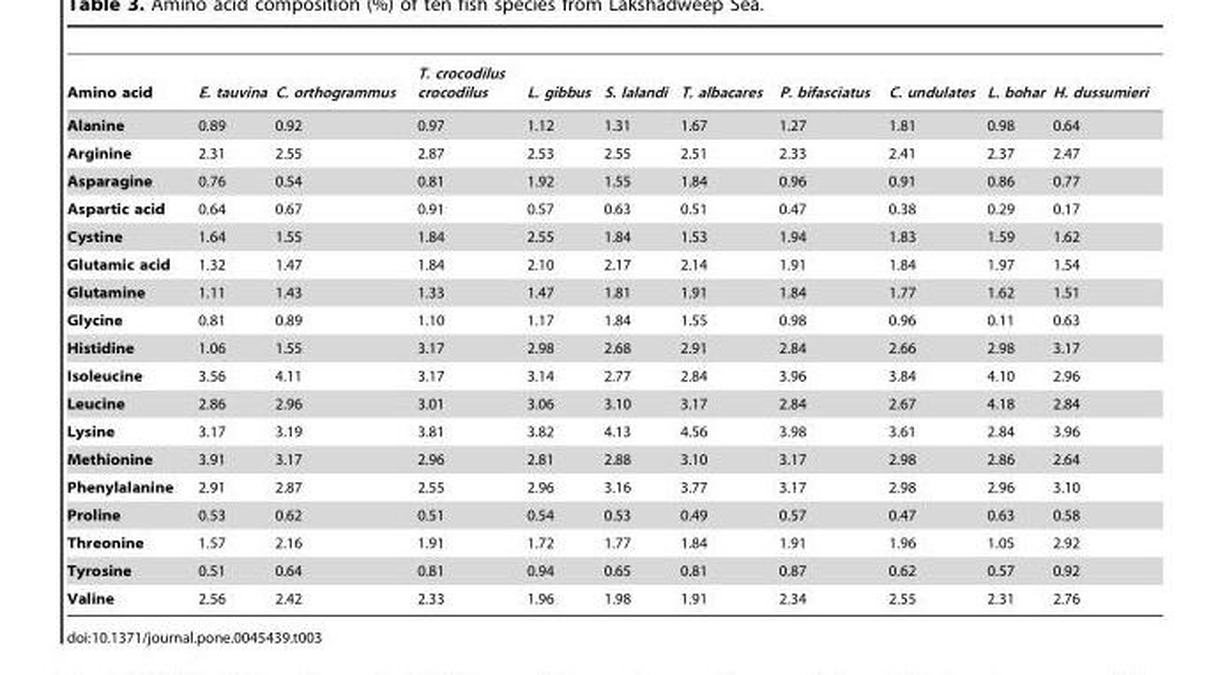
<table><thead><tr><td>Amino acid</td><td>E. tauvina</td><td>C. orthogrammus</td><td>T. crocodilus crocodilus</td><td>L. gibbus</td><td>S. lalandi</td><td>T. albacares</td><td>P. bifasciatus</td><td>C. undulates</td><td>L. bohar</td><td>H. dussumieri</td></tr></thead><tbody><tr><td>Alanine</td><td>0.89</td><td>0.92</td><td>0.97</td><td>1.12</td><td>1.31</td><td>1.67</td><td>1.27</td><td>1.81</td><td>0.98</td><td>0.64</td></tr><tr><td>Arginine</td><td>2.31</td><td>2.55</td><td>2.87</td><td>2.53</td><td>2.55</td><td>2.51</td><td>2.33</td><td>2.41</td><td>2.37</td><td>2.47</td></tr><tr><td>Asparagine</td><td>0.76</td><td>0.54</td><td>0.81</td><td>1.92</td><td>1.55</td><td>1.84</td><td>0.96</td><td>0.91</td><td>0.86</td><td>0.77</td></tr><tr><td>Aspartic acid</td><td>0.64</td><td>0.67</td><td>0.91</td><td>0.57</td><td>0.63</td><td>0.51</td><td>0.47</td><td>0.38</td><td>0.29</td><td>0.17</td></tr><tr><td>Cystine</td><td>1.64</td><td>1.55</td><td>1.84</td><td>2.55</td><td>1.84</td><td>1.53</td><td>1.94</td><td>1.83</td><td>1.59</td><td>1.62</td></tr><tr><td>Glutamic acid</td><td>1.32</td><td>1.47</td><td>1.84</td><td>2.10</td><td>2.17</td><td>2.14</td><td>1.91</td><td>1.84</td><td>1.97</td><td>1.54</td></tr><tr><td>Glutamine</td><td>1.11</td><td>1.43</td><td>1.33</td><td>1.47</td><td>1.81</td><td>1.91</td><td>1.84</td><td>1.77</td><td>1.62</td><td>1.51</td></tr><tr><td>Glycine</td><td>0.81</td><td>0.89</td><td>1.10</td><td>1.17</td><td>1.84</td><td>1.55</td><td>0.98</td><td>0.96</td><td>0.11</td><td>0.63</td></tr><tr><td>Histidine</td><td>1.06</td><td>1.55</td><td>3.17</td><td>2.98</td><td>2.68</td><td>2.91</td><td>2.84</td><td>2.66</td><td>2.98</td><td>3.17</td></tr><tr><td>Isoleucine</td><td>3.56</td><td>4.11</td><td>3.17</td><td>3.14</td><td>2.77</td><td>2.84</td><td>3.96</td><td>3.84</td><td>4.10</td><td>2.96</td></tr><tr><td>Leucine</td><td>2.86</td><td>2.96</td><td>3.01</td><td>3.06</td><td>3.10</td><td>3.17</td><td>2.84</td><td>2.67</td><td>4.18</td><td>2.84</td></tr><tr><td>Lysine</td><td>3.17</td><td>3.19</td><td>3.81</td><td>3.82</td><td>4.13</td><td>4.56</td><td>3.98</td><td>3.61</td><td>2.84</td><td>3.96</td></tr><tr><td>Methionine</td><td>3.91</td><td>3.17</td><td>2.96</td><td>2.81</td><td>2.88</td><td>3.10</td><td>3.17</td><td>2.98</td><td>2.86</td><td>2.64</td></tr><tr><td>Phenylalanine</td><td>2.91</td><td>2.87</td><td>2.55</td><td>2.96</td><td>3.16</td><td>3.77</td><td>3.17</td><td>2.98</td><td>2.96</td><td>3.10</td></tr><tr><td>Proline</td><td>0.53</td><td>0.62</td><td>0.51</td><td>0.54</td><td>0.53</td><td>0.49</td><td>0.57</td><td>0.47</td><td>0.63</td><td>0.58</td></tr><tr><td>Threonine</td><td>1.57</td><td>2.16</td><td>1.91</td><td>1.72</td><td>1.77</td><td>1.84</td><td>1.91</td><td>1.96</td><td>1.05</td><td>2.92</td></tr><tr><td>Tyrosine</td><td>0.51</td><td>0.64</td><td>0.81</td><td>0.94</td><td>0.65</td><td>0.81</td><td>0.87</td><td>0.62</td><td>0.57</td><td>0.92</td></tr><tr><td>Valine</td><td>2.56</td><td>2.42</td><td>2.33</td><td>1.96</td><td>1.98</td><td>1.91</td><td>2.34</td><td>2.55</td><td>2.31</td><td>2.76</td></tr></tbody></table>